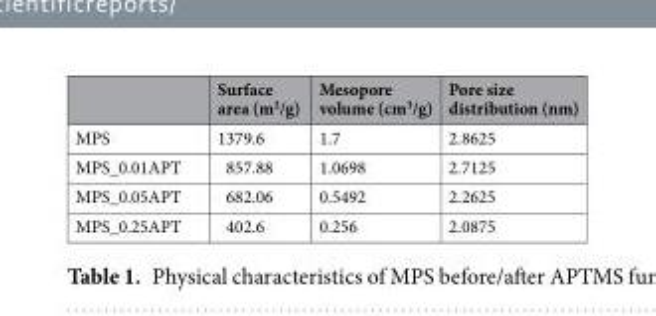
<table><thead><tr><td></td><td>Surface area (m<sup>2</sup>/g)</td><td>Mesopore volume (cm<sup>3</sup>/g)</td><td>Pore size distribution (nm)</td></tr></thead><tbody><tr><td>MPS</td><td>1379.6</td><td>1.7</td><td>2.8625</td></tr><tr><td>MPS_0.01APT</td><td>857.88</td><td>1.0698</td><td>2.7125</td></tr><tr><td>MPS_0.05APT</td><td>682.06</td><td>0.5492</td><td>2.2625</td></tr><tr><td>MPS_0.25APT</td><td>402.6</td><td>0.256</td><td>2.0875</td></tr></tbody></table>